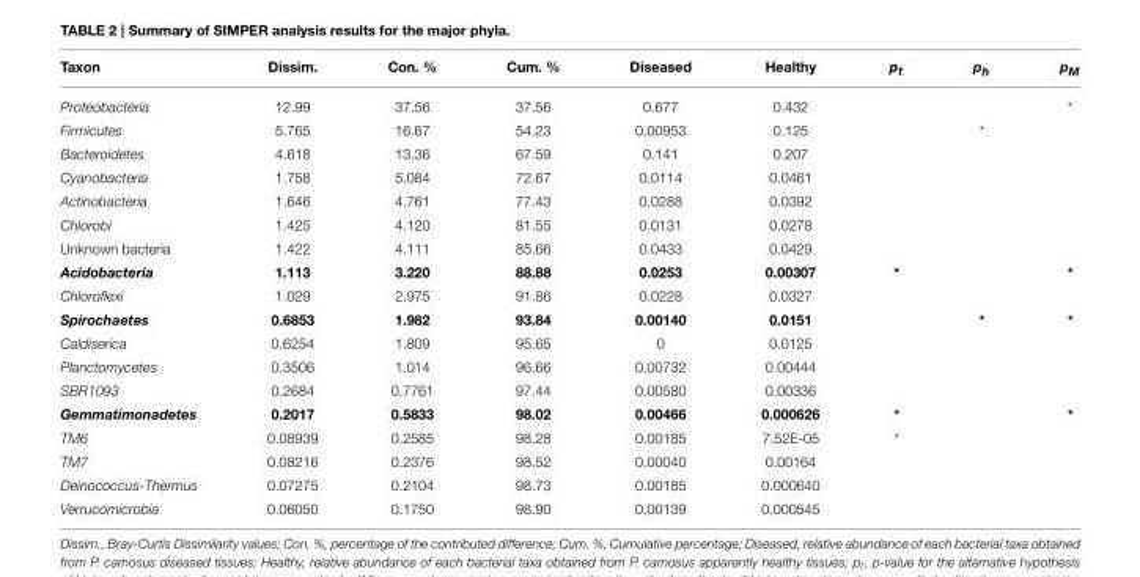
<table><thead><tr><td>Taxon</td><td>Dissim.</td><td>Con. %</td><td>Cum. %</td><td>Diseased</td><td>Healthy</td><td>p<sub>t</sub></td><td>p<sub>h</sub></td><td>p<sub>M</sub></td></tr></thead><tbody><tr><td>Proteobacteria</td><td>12.99</td><td>37.56</td><td>37.56</td><td>0.677</td><td>0.432</td><td></td><td></td><td>*</td></tr><tr><td>Firmicutes</td><td>5.765</td><td>16.67</td><td>54.23</td><td>0.00953</td><td>0.125</td><td></td><td>*</td><td></td></tr><tr><td>Bacteroidetes</td><td>4.618</td><td>13.36</td><td>67.59</td><td>0.141</td><td>0.207</td><td></td><td></td><td></td></tr><tr><td>Cyanobacteria</td><td>1.758</td><td>5.084</td><td>72.67</td><td>0.0114</td><td>0.0461</td><td></td><td></td><td></td></tr><tr><td>Actinobacteria</td><td>1.646</td><td>4.761</td><td>77.43</td><td>0.0288</td><td>0.0392</td><td></td><td></td><td></td></tr><tr><td>Chlorobi</td><td>1.425</td><td>4.120</td><td>81.55</td><td>0.0131</td><td>0.0278</td><td></td><td></td><td></td></tr><tr><td>Unknown bacteria</td><td>1.422</td><td>4.111</td><td>85.66</td><td>0.0433</td><td>0.0429</td><td></td><td></td><td></td></tr><tr><td>Acidobacteria</td><td>1.113</td><td>3.220</td><td>88.88</td><td>0.0253</td><td>0.00307</td><td>*</td><td></td><td>*</td></tr><tr><td>Chloroflexi</td><td>1.029</td><td>2.975</td><td>91.86</td><td>0.0228</td><td>0.0327</td><td></td><td></td><td></td></tr><tr><td>Spirochaetes</td><td>0.6853</td><td>1.982</td><td>93.84</td><td>0.00140</td><td>0.0151</td><td></td><td>*</td><td>*</td></tr><tr><td>Caldiserica</td><td>0.6254</td><td>1.809</td><td>95.65</td><td>0</td><td>0.0125</td><td></td><td></td><td></td></tr><tr><td>Planctomycetes</td><td>0.3506</td><td>1.014</td><td>96.66</td><td>0.00732</td><td>0.00444</td><td></td><td></td><td></td></tr><tr><td>SBR1093</td><td>0.2684</td><td>0.7761</td><td>97.44</td><td>0.00580</td><td>0.00336</td><td></td><td></td><td></td></tr><tr><td>Gemmatimonadetes</td><td>0.2017</td><td>0.5833</td><td>98.02</td><td>0.00466</td><td>0.000626</td><td>*</td><td></td><td>*</td></tr><tr><td>TM6</td><td>0.08939</td><td>0.2585</td><td>98.28</td><td>0.00185</td><td>7.52E-05</td><td>*</td><td></td><td></td></tr><tr><td>TM7</td><td>0.08216</td><td>0.2376</td><td>98.52</td><td>0.00040</td><td>0.00164</td><td></td><td></td><td></td></tr><tr><td>Deinococcus-Thermus</td><td>0.07275</td><td>0.2104</td><td>98.73</td><td>0.00185</td><td>0.000640</td><td></td><td></td><td></td></tr><tr><td>Verrucomicrobia</td><td>0.06050</td><td>0.1750</td><td>98.90</td><td>0.00139</td><td>0.000545</td><td></td><td></td><td></td></tr></tbody></table>